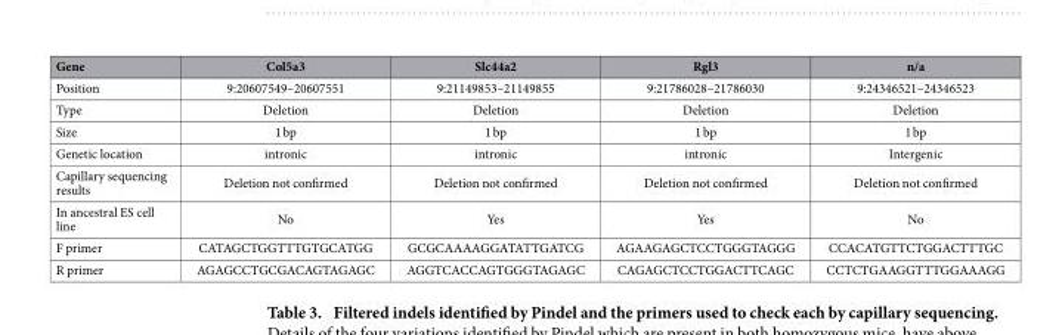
<table><thead><tr><td>Gene</td><td>Col5a3</td><td>Slc44a2</td><td>Rgl3</td><td>n/a</td></tr></thead><tbody><tr><td>Position</td><td>9:20607549–20607551</td><td>9:21149853–21149855</td><td>9:21786028–21786030</td><td>9:24346521–24346523</td></tr><tr><td>Type</td><td>Deletion</td><td>Deletion</td><td>Deletion</td><td>Deletion</td></tr><tr><td>Size</td><td>1 bp</td><td>1 bp</td><td>1 bp</td><td>1 bp</td></tr><tr><td>Genetic location</td><td>intronic</td><td>intronic</td><td>intronic</td><td>Intergenic</td></tr><tr><td>Capillary sequencing results</td><td>Deletion not confirmed</td><td>Deletion not confirmed</td><td>Deletion not confirmed</td><td>Deletion not confirmed</td></tr><tr><td>In ancestral ES cell line</td><td>No</td><td>Yes</td><td>Yes</td><td>No</td></tr><tr><td>F primer</td><td>CATAGCTGGTTTGTGCATGG</td><td>GCGCAAAAGGATATTGATCG</td><td>AGAAGAGCTCCTGGGTAGGG</td><td>CCACATGTTCTGGACTTTGC</td></tr><tr><td>R primer</td><td>AGAGCCTGCGACAGTAGAGC</td><td>AGGTCACCAGTGGGTAGAGC</td><td>CAGAGCTCCTGGACTTCAGC</td><td>CCTCTGAAGGTTTGGAAAGG</td></tr></tbody></table>